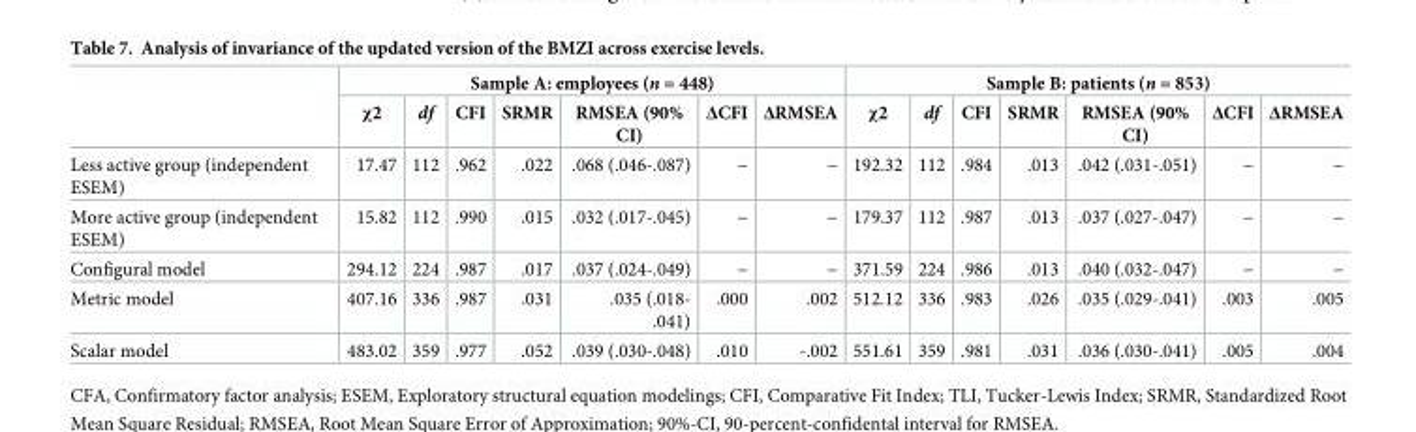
<table><thead><tr><td rowspan="2"></td><td colspan="7">Sample A: employees (n = 448)</td><td colspan="7">Sample B: patients (n = 853)</td></tr><tr><td>χ2</td><td>df</td><td>CFI</td><td>SRMR</td><td>RMSEA (90% CI)</td><td>ΔCFI</td><td>ΔRMSEA</td><td>χ2</td><td>df</td><td>CFI</td><td>SRMR</td><td>RMSEA (90% CI)</td><td>ΔCFI</td><td>ΔRMSEA</td></tr></thead><tbody><tr><td>Less active group (independent ESEM)</td><td>17.47</td><td>112</td><td>.962</td><td>.022</td><td>.068 (.046-.087)</td><td>−</td><td>−</td><td>192.32</td><td>112</td><td>.984</td><td>.013</td><td>.042 (.031-.051)</td><td>−</td><td>−</td></tr><tr><td>More active group (independent ESEM)</td><td>15.82</td><td>112</td><td>.990</td><td>.015</td><td>.032 (.017-.045)</td><td>−</td><td>−</td><td>179.37</td><td>112</td><td>.987</td><td>.013</td><td>.037 (.027-.047)</td><td>−</td><td>−</td></tr><tr><td>Configural model</td><td>294.12</td><td>224</td><td>.987</td><td>.017</td><td>.037 (.024-.049)</td><td>−</td><td>−</td><td>371.59</td><td>224</td><td>.986</td><td>.013</td><td>.040 (.032-.047)</td><td>−</td><td>−</td></tr><tr><td>Metric model</td><td>407.16</td><td>336</td><td>.987</td><td>.031</td><td>.035 (.018- .041)</td><td>.000</td><td>.002</td><td>512.12</td><td>336</td><td>.983</td><td>.026</td><td>.035 (.029-.041)</td><td>.003</td><td>.005</td></tr><tr><td>Scalar model</td><td>483.02</td><td>359</td><td>.977</td><td>.052</td><td>.039 (.030-.048)</td><td>.010</td><td>-.002</td><td>551.61</td><td>359</td><td>.981</td><td>.031</td><td>.036 (.030-.041)</td><td>.005</td><td>.004</td></tr></tbody></table>